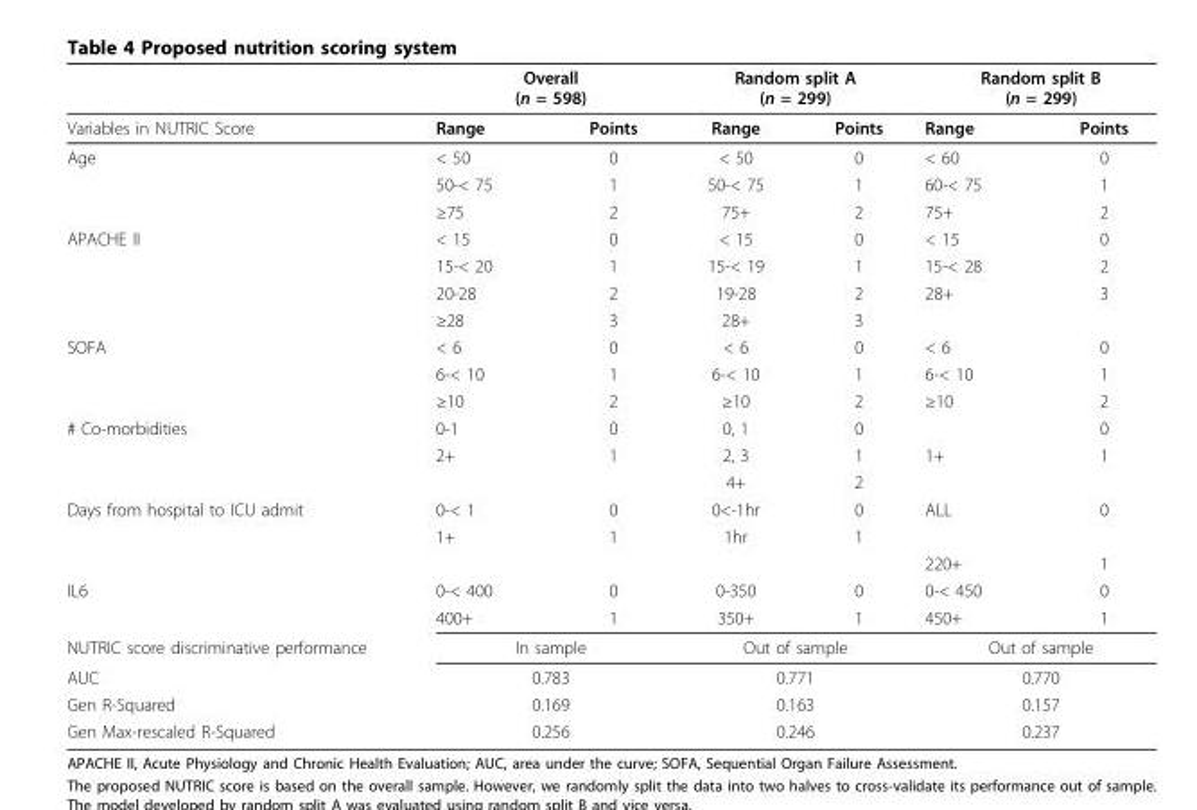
<table><thead><tr><td rowspan="2">Variables in NUTRIC Score</td><td colspan="2">Overall (n = 598)</td><td colspan="2">Random split A (n = 299)</td><td colspan="2">Random split B (n = 299)</td></tr><tr><td>Range</td><td>Points</td><td>Range</td><td>Points</td><td>Range</td><td>Points</td></tr></thead><tbody><tr><td rowspan="3">Age</td><td>&lt; 50</td><td>0</td><td>&lt; 50</td><td>0</td><td>&lt; 60</td><td>0</td></tr><tr><td>50-&lt; 75</td><td>1</td><td>50-&lt; 75</td><td>1</td><td>60-&lt; 75</td><td>1</td></tr><tr><td>≥75</td><td>2</td><td>75+</td><td>2</td><td>75+</td><td>2</td></tr><tr><td rowspan="4">APACHE II</td><td>&lt; 15</td><td>0</td><td>&lt; 15</td><td>0</td><td>&lt; 15</td><td>0</td></tr><tr><td>15-&lt; 20</td><td>1</td><td>15-&lt; 19</td><td>1</td><td>15-&lt; 28</td><td>2</td></tr><tr><td>20-28</td><td>2</td><td>19-28</td><td>2</td><td>28+</td><td>3</td></tr><tr><td>≥28</td><td>3</td><td>28+</td><td>3</td><td></td><td></td></tr><tr><td rowspan="3">SOFA</td><td>&lt; 6</td><td>0</td><td>&lt; 6</td><td>0</td><td>&lt; 6</td><td>0</td></tr><tr><td>6-&lt; 10</td><td>1</td><td>6-&lt; 10</td><td>1</td><td>6-&lt; 10</td><td>1</td></tr><tr><td>≥10</td><td>2</td><td>≥10</td><td>2</td><td>≥10</td><td>2</td></tr><tr><td rowspan="3"># Co-morbidities</td><td>0-1</td><td>0</td><td>0, 1</td><td>0</td><td></td><td>0</td></tr><tr><td>2+</td><td>1</td><td>2, 3</td><td>1</td><td>1+</td><td>1</td></tr><tr><td></td><td></td><td>4+</td><td>2</td><td></td><td></td></tr><tr><td rowspan="3">Days from hospital to ICU admit</td><td>0-&lt; 1</td><td>0</td><td>0&lt;-1hr</td><td>0</td><td>ALL</td><td>0</td></tr><tr><td>1+</td><td>1</td><td>1hr</td><td>1</td><td></td><td></td></tr><tr><td></td><td></td><td></td><td></td><td>220+</td><td>1</td></tr><tr><td rowspan="2">IL6</td><td>0-&lt; 400</td><td>0</td><td>0-350</td><td>0</td><td>0-&lt; 450</td><td>0</td></tr><tr><td>400+</td><td>1</td><td>350+</td><td>1</td><td>450+</td><td>1</td></tr><tr><td>NUTRIC score discriminative performance</td><td colspan="2">In sample</td><td colspan="2">Out of sample</td><td colspan="2">Out of sample</td></tr><tr><td>AUC</td><td colspan="2">0.783</td><td colspan="2">0.771</td><td colspan="2">0.770</td></tr><tr><td>Gen R-Squared</td><td colspan="2">0.169</td><td colspan="2">0.163</td><td colspan="2">0.157</td></tr><tr><td>Gen Max-rescaled R-Squared</td><td colspan="2">0.256</td><td colspan="2">0.246</td><td colspan="2">0.237</td></tr></tbody></table>